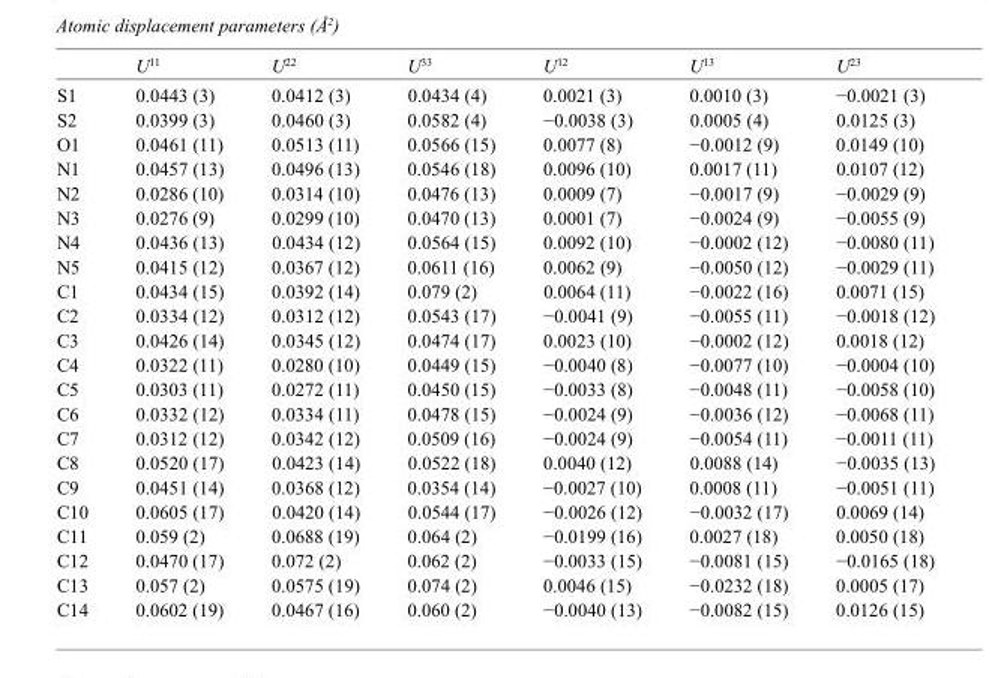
<table><thead><tr><td></td><td>U<sup>11</sup></td><td>U<sup>22</sup></td><td>U<sup>33</sup></td><td>U<sup>12</sup></td><td>U<sup>13</sup></td><td>U<sup>23</sup></td></tr></thead><tbody><tr><td>S1</td><td>0.0443 (3)</td><td>0.0412 (3)</td><td>0.0434 (4)</td><td>0.0021 (3)</td><td>0.0010 (3)</td><td>−0.0021 (3)</td></tr><tr><td>S2</td><td>0.0399 (3)</td><td>0.0460 (3)</td><td>0.0582 (4)</td><td>−0.0038 (3)</td><td>0.0005 (4)</td><td>0.0125 (3)</td></tr><tr><td>O1</td><td>0.0461 (11)</td><td>0.0513 (11)</td><td>0.0566 (15)</td><td>0.0077 (8)</td><td>−0.0012 (9)</td><td>0.0149 (10)</td></tr><tr><td>N1</td><td>0.0457 (13)</td><td>0.0496 (13)</td><td>0.0546 (18)</td><td>0.0096 (10)</td><td>0.0017 (11)</td><td>0.0107 (12)</td></tr><tr><td>N2</td><td>0.0286 (10)</td><td>0.0314 (10)</td><td>0.0476 (13)</td><td>0.0009 (7)</td><td>−0.0017 (9)</td><td>−0.0029 (9)</td></tr><tr><td>N3</td><td>0.0276 (9)</td><td>0.0299 (10)</td><td>0.0470 (13)</td><td>0.0001 (7)</td><td>−0.0024 (9)</td><td>−0.0055 (9)</td></tr><tr><td>N4</td><td>0.0436 (13)</td><td>0.0434 (12)</td><td>0.0564 (15)</td><td>0.0092 (10)</td><td>−0.0002 (12)</td><td>−0.0080 (11)</td></tr><tr><td>N5</td><td>0.0415 (12)</td><td>0.0367 (12)</td><td>0.0611 (16)</td><td>0.0062 (9)</td><td>−0.0050 (12)</td><td>−0.0029 (11)</td></tr><tr><td>C1</td><td>0.0434 (15)</td><td>0.0392 (14)</td><td>0.079 (2)</td><td>0.0064 (11)</td><td>−0.0022 (16)</td><td>0.0071 (15)</td></tr><tr><td>C2</td><td>0.0334 (12)</td><td>0.0312 (12)</td><td>0.0543 (17)</td><td>−0.0041 (9)</td><td>−0.0055 (11)</td><td>−0.0018 (12)</td></tr><tr><td>C3</td><td>0.0426 (14)</td><td>0.0345 (12)</td><td>0.0474 (17)</td><td>0.0023 (10)</td><td>−0.0002 (12)</td><td>0.0018 (12)</td></tr><tr><td>C4</td><td>0.0322 (11)</td><td>0.0280 (10)</td><td>0.0449 (15)</td><td>−0.0040 (8)</td><td>−0.0077 (10)</td><td>−0.0004 (10)</td></tr><tr><td>C5</td><td>0.0303 (11)</td><td>0.0272 (11)</td><td>0.0450 (15)</td><td>−0.0033 (8)</td><td>−0.0048 (11)</td><td>−0.0058 (10)</td></tr><tr><td>C6</td><td>0.0332 (12)</td><td>0.0334 (11)</td><td>0.0478 (15)</td><td>−0.0024 (9)</td><td>−0.0036 (12)</td><td>−0.0068 (11)</td></tr><tr><td>C7</td><td>0.0312 (12)</td><td>0.0342 (12)</td><td>0.0509 (16)</td><td>−0.0024 (9)</td><td>−0.0054 (11)</td><td>−0.0011 (11)</td></tr><tr><td>C8</td><td>0.0520 (17)</td><td>0.0423 (14)</td><td>0.0522 (18)</td><td>0.0040 (12)</td><td>0.0088 (14)</td><td>−0.0035 (13)</td></tr><tr><td>C9</td><td>0.0451 (14)</td><td>0.0368 (12)</td><td>0.0354 (14)</td><td>−0.0027 (10)</td><td>0.0008 (11)</td><td>−0.0051 (11)</td></tr><tr><td>C10</td><td>0.0605 (17)</td><td>0.0420 (14)</td><td>0.0544 (17)</td><td>−0.0026 (12)</td><td>−0.0032 (17)</td><td>0.0069 (14)</td></tr><tr><td>C11</td><td>0.059 (2)</td><td>0.0688 (19)</td><td>0.064 (2)</td><td>−0.0199 (16)</td><td>0.0027 (18)</td><td>0.0050 (18)</td></tr><tr><td>C12</td><td>0.0470 (17)</td><td>0.072 (2)</td><td>0.062 (2)</td><td>−0.0033 (15)</td><td>−0.0081 (15)</td><td>−0.0165 (18)</td></tr><tr><td>C13</td><td>0.057 (2)</td><td>0.0575 (19)</td><td>0.074 (2)</td><td>0.0046 (15)</td><td>−0.0232 (18)</td><td>0.0005 (17)</td></tr><tr><td>C14</td><td>0.0602 (19)</td><td>0.0467 (16)</td><td>0.060 (2)</td><td>−0.0040 (13)</td><td>−0.0082 (15)</td><td>0.0126 (15)</td></tr></tbody></table>